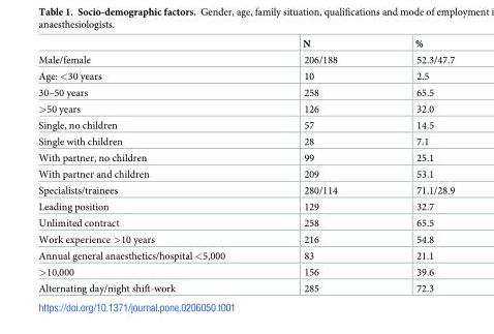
<table><thead><tr><td></td><td>N</td><td>%</td></tr></thead><tbody><tr><td>Male/female</td><td>206/188</td><td>52.3/47.7</td></tr><tr><td>Age: &lt;30 years</td><td>10</td><td>2.5</td></tr><tr><td>30–50 years</td><td>258</td><td>65.5</td></tr><tr><td>&gt;50 years</td><td>126</td><td>32.0</td></tr><tr><td>Single, no children</td><td>57</td><td>14.5</td></tr><tr><td>Single with children</td><td>28</td><td>7.1</td></tr><tr><td>With partner, no children</td><td>99</td><td>25.1</td></tr><tr><td>With partner and children</td><td>209</td><td>53.1</td></tr><tr><td>Specialists/trainees</td><td>280/114</td><td>71.1/28.9</td></tr><tr><td>Leading position</td><td>129</td><td>32.7</td></tr><tr><td>Unlimited contract</td><td>258</td><td>65.5</td></tr><tr><td>Work experience &gt;10 years</td><td>216</td><td>54.8</td></tr><tr><td>Annual general anaesthetics/hospital &lt;5,000</td><td>83</td><td>21.1</td></tr><tr><td>&gt;10,000</td><td>156</td><td>39.6</td></tr><tr><td>Alternating day/night shift-work</td><td>285</td><td>72.3</td></tr></tbody></table>